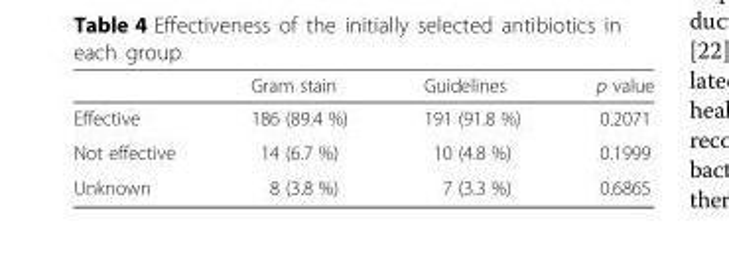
<table><thead><tr><td></td><td>Gram stain</td><td>Guidelines</td><td>p value</td></tr></thead><tbody><tr><td>Effective</td><td>186 (89.4 %)</td><td>191 (91.8 %)</td><td>0.2071</td></tr><tr><td>Not effective</td><td>14 (6.7 %)</td><td>10 (4.8 %)</td><td>0.1999</td></tr><tr><td>Unknown</td><td>8 (3.8 %)</td><td>7 (3.3 %)</td><td>0.6865</td></tr></tbody></table>